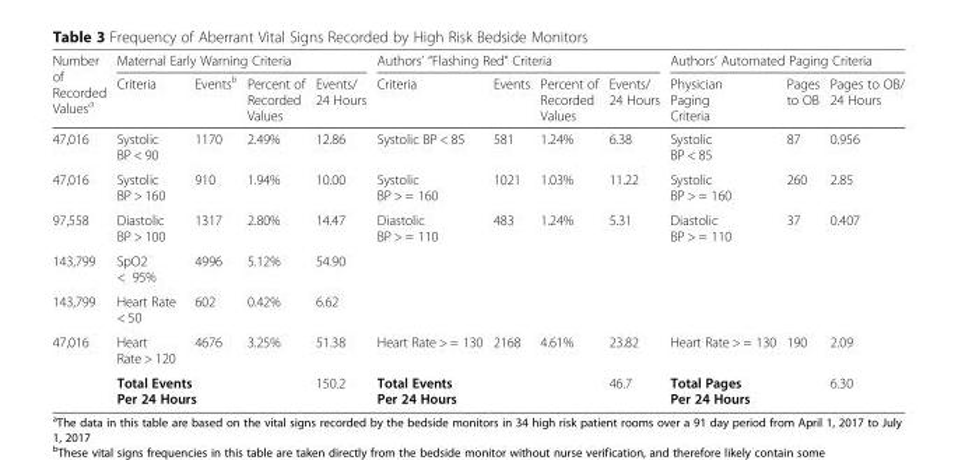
<table><thead><tr><td rowspan="2">Number of Recorded Values<sup>a</sup></td><td colspan="4">Maternal Early Warning Criteria</td><td colspan="4">Authors’ “Flashing Red” Criteria</td><td colspan="3">Authors’ Automated Paging Criteria</td></tr><tr><td>Criteria</td><td>Events<sup>b</sup></td><td>Percent of Recorded Values</td><td>Events/ 24 Hours</td><td>Criteria</td><td>Events</td><td>Percent of Recorded Values</td><td>Events/ 24 Hours</td><td>Physician Paging Criteria</td><td>Pages to OB</td><td>Pages to OB/ 24 Hours</td></tr></thead><tbody><tr><td>47,016</td><td>Systolic BP &lt; 90</td><td>1170</td><td>2.49%</td><td>12.86</td><td>Systolic BP &lt; 85</td><td>581</td><td>1.24%</td><td>6.38</td><td>Systolic BP &lt; 85</td><td>87</td><td>0.956</td></tr><tr><td>47,016</td><td>Systolic BP &gt; 160</td><td>910</td><td>1.94%</td><td>10.00</td><td>Systolic BP &gt; = 160</td><td>1021</td><td>1.03%</td><td>11.22</td><td>Systolic BP &gt; = 160</td><td>260</td><td>2.85</td></tr><tr><td>97,558</td><td>Diastolic BP &gt; 100</td><td>1317</td><td>2.80%</td><td>14.47</td><td>Diastolic BP &gt; = 110</td><td>483</td><td>1.24%</td><td>5.31</td><td>Diastolic BP &gt; = 110</td><td>37</td><td>0.407</td></tr><tr><td>143,799</td><td>SpO2 &lt; 95%</td><td>4996</td><td>5.12%</td><td>54.90</td><td></td><td></td><td></td><td></td><td></td><td></td><td></td></tr><tr><td>143,799</td><td>Heart Rate &lt; 50</td><td>602</td><td>0.42%</td><td>6.62</td><td></td><td></td><td></td><td></td><td></td><td></td><td></td></tr><tr><td rowspan="2">47,016</td><td>Heart Rate &gt; 120</td><td>4676</td><td>3.25%</td><td>51.38</td><td>Heart Rate &gt; = 130</td><td>2168</td><td>4.61%</td><td>23.82</td><td>Heart Rate &gt; = 130</td><td>190</td><td>2.09</td></tr><tr><td colspan="3">Total Events Per 24 Hours</td><td>150.2</td><td colspan="3">Total Events Per 24 Hours</td><td>46.7</td><td colspan="2">Total Pages Per 24 Hours</td><td>6.30</td></tr></tbody></table>